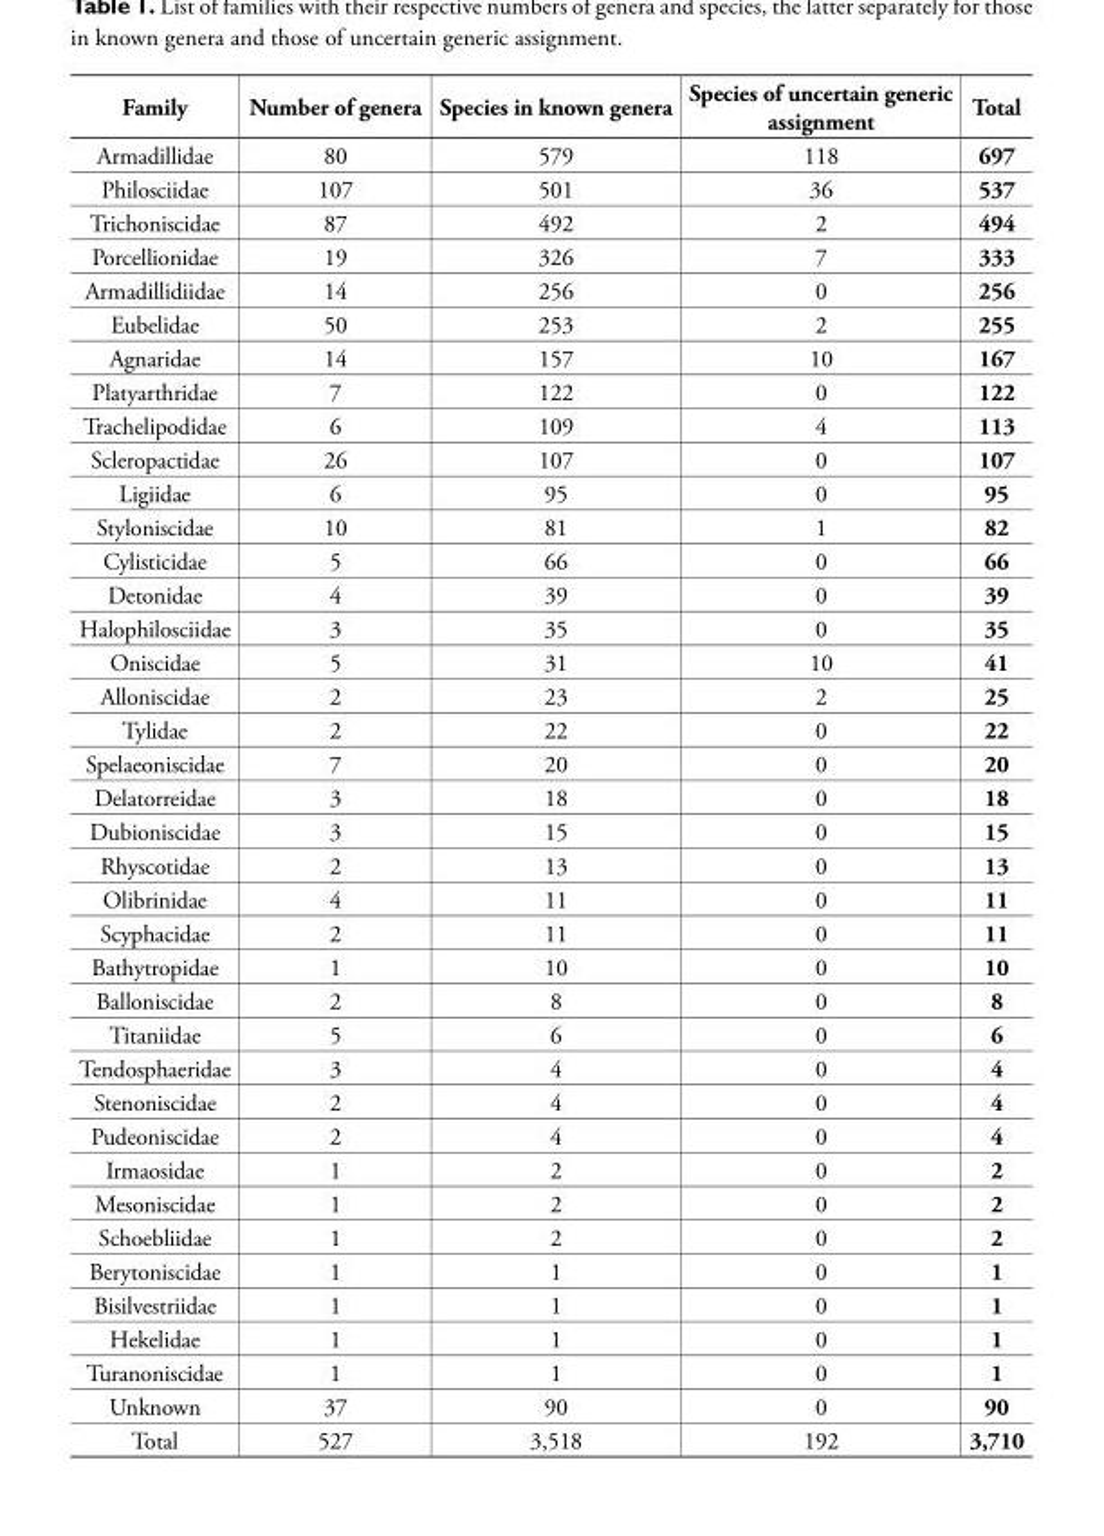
<table><thead><tr><td>Family</td><td>Number of genera</td><td>Species in known genera</td><td>Species of uncertain generic assignment</td><td>Total</td></tr></thead><tbody><tr><td>Armadillidae</td><td>80</td><td>579</td><td>118</td><td>697</td></tr><tr><td>Philosciidae</td><td>107</td><td>501</td><td>36</td><td>537</td></tr><tr><td>Trichoniscidae</td><td>87</td><td>492</td><td>2</td><td>494</td></tr><tr><td>Porcellionidae</td><td>19</td><td>326</td><td>7</td><td>333</td></tr><tr><td>Armadillidiidae</td><td>14</td><td>256</td><td>0</td><td>256</td></tr><tr><td>Eubelidae</td><td>50</td><td>253</td><td>2</td><td>255</td></tr><tr><td>Agnaridae</td><td>14</td><td>157</td><td>10</td><td>167</td></tr><tr><td>Platyarthridae</td><td>7</td><td>122</td><td>0</td><td>122</td></tr><tr><td>Trachelipodidae</td><td>6</td><td>109</td><td>4</td><td>113</td></tr><tr><td>Scleropactidae</td><td>26</td><td>107</td><td>0</td><td>107</td></tr><tr><td>Ligiidae</td><td>6</td><td>95</td><td>0</td><td>95</td></tr><tr><td>Styloniscidae</td><td>10</td><td>81</td><td>1</td><td>82</td></tr><tr><td>Cylisticidae</td><td>5</td><td>66</td><td>0</td><td>66</td></tr><tr><td>Detonidae</td><td>4</td><td>39</td><td>0</td><td>39</td></tr><tr><td>Halophilosciidae</td><td>3</td><td>35</td><td>0</td><td>35</td></tr><tr><td>Oniscidae</td><td>5</td><td>31</td><td>10</td><td>41</td></tr><tr><td>Alloniscidae</td><td>2</td><td>23</td><td>2</td><td>25</td></tr><tr><td>Tylidae</td><td>2</td><td>22</td><td>0</td><td>22</td></tr><tr><td>Spelaeoniscidae</td><td>7</td><td>20</td><td>0</td><td>20</td></tr><tr><td>Delatorreidae</td><td>3</td><td>18</td><td>0</td><td>18</td></tr><tr><td>Dubioniscidae</td><td>3</td><td>15</td><td>0</td><td>15</td></tr><tr><td>Rhyscotidae</td><td>2</td><td>13</td><td>0</td><td>13</td></tr><tr><td>Olibrinidae</td><td>4</td><td>11</td><td>0</td><td>11</td></tr><tr><td>Scyphacidae</td><td>2</td><td>11</td><td>0</td><td>11</td></tr><tr><td>Bathytropidae</td><td>1</td><td>10</td><td>0</td><td>10</td></tr><tr><td>Balloniscidae</td><td>2</td><td>8</td><td>0</td><td>8</td></tr><tr><td>Titaniidae</td><td>5</td><td>6</td><td>0</td><td>6</td></tr><tr><td>Tendosphaeridae</td><td>3</td><td>4</td><td>0</td><td>4</td></tr><tr><td>Stenoniscidae</td><td>2</td><td>4</td><td>0</td><td>4</td></tr><tr><td>Pudeoniscidae</td><td>2</td><td>4</td><td>0</td><td>4</td></tr><tr><td>Irmaosidae</td><td>1</td><td>2</td><td>0</td><td>2</td></tr><tr><td>Mesoniscidae</td><td>1</td><td>2</td><td>0</td><td>2</td></tr><tr><td>Schoebliidae</td><td>1</td><td>2</td><td>0</td><td>2</td></tr><tr><td>Berytoniscidae</td><td>1</td><td>1</td><td>0</td><td>1</td></tr><tr><td>Bisilvestriidae</td><td>1</td><td>1</td><td>0</td><td>1</td></tr><tr><td>Hekelidae</td><td>1</td><td>1</td><td>0</td><td>1</td></tr><tr><td>Turanoniscidae</td><td>1</td><td>1</td><td>0</td><td>1</td></tr><tr><td>Unknown</td><td>37</td><td>90</td><td>0</td><td>90</td></tr><tr><td>Total</td><td>527</td><td>3,518</td><td>192</td><td>3,710</td></tr></tbody></table>